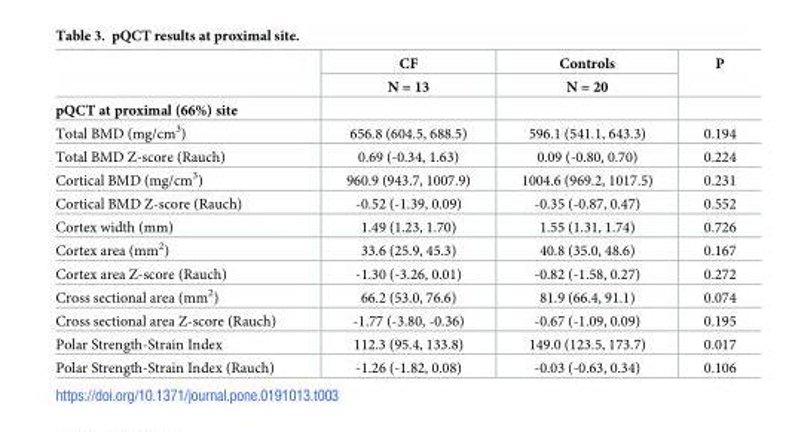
<table><thead><tr><td rowspan="2"></td><td rowspan="2">CF N = 13</td><td rowspan="2">Controls N = 20</td><td rowspan="2">P</td></tr><tr></tr></thead><tbody><tr><td colspan="4">pQCT at proximal (66%) site</td></tr><tr><td>Total BMD (mg/cm<sup>3</sup>)</td><td>656.8 (604.5, 688.5)</td><td>596.1 (541.1, 643.3)</td><td>0.194</td></tr><tr><td>Total BMD Z-score (Rauch)</td><td>0.69 (-0.34, 1.63)</td><td>0.09 (-0.80, 0.70)</td><td>0.224</td></tr><tr><td>Cortical BMD (mg/cm<sup>3</sup>)</td><td>960.9 (943.7, 1007.9)</td><td>1004.6 (969.2, 1017.5)</td><td>0.231</td></tr><tr><td>Cortical BMD Z-score (Rauch)</td><td>-0.52 (-1.39, 0.09)</td><td>-0.35 (-0.87, 0.47)</td><td>0.552</td></tr><tr><td>Cortex width (mm)</td><td>1.49 (1.23, 1.70)</td><td>1.55 (1.31, 1.74)</td><td>0.726</td></tr><tr><td>Cortex area (mm<sup>2</sup>)</td><td>33.6 (25.9, 45.3)</td><td>40.8 (35.0, 48.6)</td><td>0.167</td></tr><tr><td>Cortex area Z-score (Rauch)</td><td>-1.30 (-3.26, 0.01)</td><td>-0.82 (-1.58, 0.27)</td><td>0.272</td></tr><tr><td>Cross sectional area (mm<sup>2</sup>)</td><td>66.2 (53.0, 76.6)</td><td>81.9 (66.4, 91.1)</td><td>0.074</td></tr><tr><td>Cross sectional area Z-score (Rauch)</td><td>-1.77 (-3.80, -0.36)</td><td>-0.67 (-1.09, 0.09)</td><td>0.195</td></tr><tr><td>Polar Strength-Strain Index</td><td>112.3 (95.4, 133.8)</td><td>149.0 (123.5, 173.7)</td><td>0.017</td></tr><tr><td>Polar Strength-Strain Index (Rauch)</td><td>-1.26 (-1.82, 0.08)</td><td>-0.03 (-0.63, 0.34)</td><td>0.106</td></tr></tbody></table>